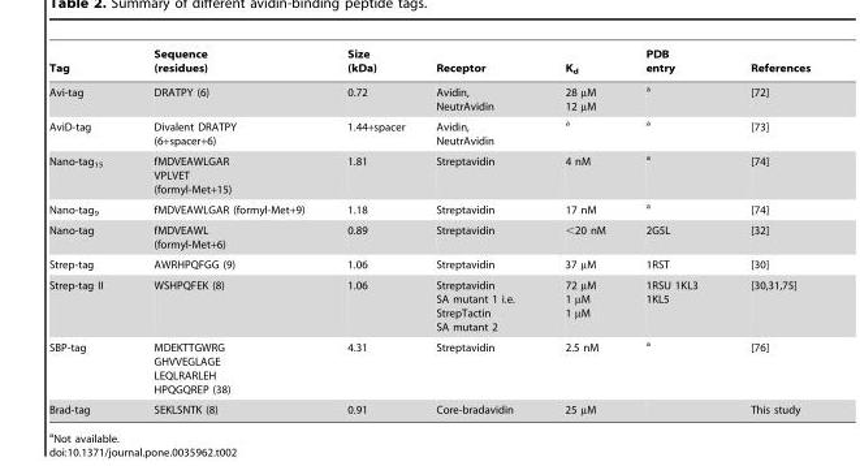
<table><thead><tr><td>Tag</td><td>Sequence (residues)</td><td>Size (kDa)</td><td>Receptor</td><td>K<sub>d</sub></td><td>PDB entry</td><td>References</td></tr></thead><tbody><tr><td>Avi-tag</td><td>DRATPY (6)</td><td>0.72</td><td>Avidin, NeutrAvidin</td><td>28 µM 12 µM</td><td>a</td><td>[72]</td></tr><tr><td>AviD-tag</td><td>Divalent DRATPY (6+spacer+6)</td><td>1.44+spacer</td><td>Avidin, NeutrAvidin</td><td>a</td><td>a</td><td>[73]</td></tr><tr><td>Nano-tag<sub>15</sub></td><td>fMDVEAWLGAR VPLVET (formyl-Met+15)</td><td>1.81</td><td>Streptavidin</td><td>4 nM</td><td>a</td><td>[74]</td></tr><tr><td>Nano-tag<sub>9</sub></td><td>fMDVEAWLGAR (formyl-Met+9)</td><td>1.18</td><td>Streptavidin</td><td>17 nM</td><td>a</td><td>[74]</td></tr><tr><td>Nano-tag</td><td>fMDVEAWL (formyl-Met+6)</td><td>0.89</td><td>Streptavidin</td><td>&lt;20 nM</td><td>2G5L</td><td>[32]</td></tr><tr><td>Strep-tag</td><td>AWRHPQFGG (9)</td><td>1.06</td><td>Streptavidin</td><td>37 µM</td><td>1RST</td><td>[30]</td></tr><tr><td>Strep-tag II</td><td>WSHPQFEK (8)</td><td>1.06</td><td>Streptavidin SA mutant 1 i.e. StrepTactin SA mutant 2</td><td>72 µM 1 µM 1 µM</td><td>1RSU 1KL3 1KL5</td><td>[30,31,75]</td></tr><tr><td>SBP-tag</td><td>MDEKTTGWRG GHVVEGLAGE LEQLRARLEH HPQGQREP (38)</td><td>4.31</td><td>Streptavidin</td><td>2.5 nM</td><td>a</td><td>[76]</td></tr><tr><td>Brad-tag</td><td>SEKLSNTK (8)</td><td>0.91</td><td>Core-bradavidin</td><td>25 µM</td><td></td><td>This study</td></tr></tbody></table>